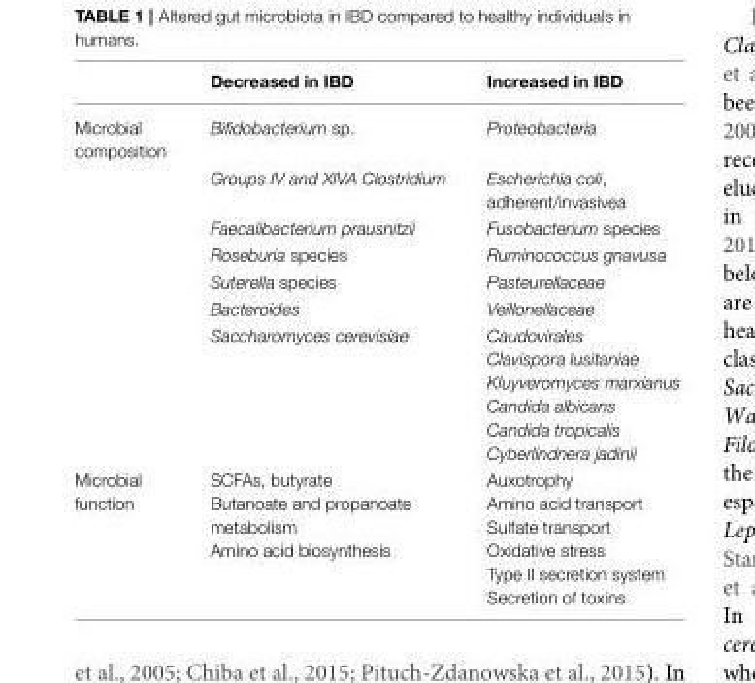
<table><thead><tr><td></td><td>Decreased in IBD</td><td>Increased in IBD</td></tr></thead><tbody><tr><td rowspan="7">Microbial composition</td><td>Bifidobacterium sp.</td><td>Proteobacteria</td></tr><tr><td>Groups IV and XIVA Clostridium</td><td>Escherichia coli, adherent/invasivea</td></tr><tr><td>Faecalibacterium prausnitzii</td><td>Fusobacterium species</td></tr><tr><td>Roseburia species</td><td>Ruminococcus gnavusa</td></tr><tr><td>Suterella species</td><td>Pasteurellaceae</td></tr><tr><td>Bacteroides</td><td>Veillonellaceae</td></tr><tr><td>Saccharomyces cerevisiae</td><td>Caudovirales Clavispora lusitaniae Kluyveromyces marxianus Candida albicans Candida tropicalis Cyberlindnera jadinii</td></tr><tr><td>Microbial function</td><td>SCFAs, butyrate Butanoate and propanoate metabolism Amino acid biosynthesis</td><td>Auxotrophy Amino acid transport Sulfate transport Oxidative stress Type II secretion system Secretion of toxins</td></tr></tbody></table>